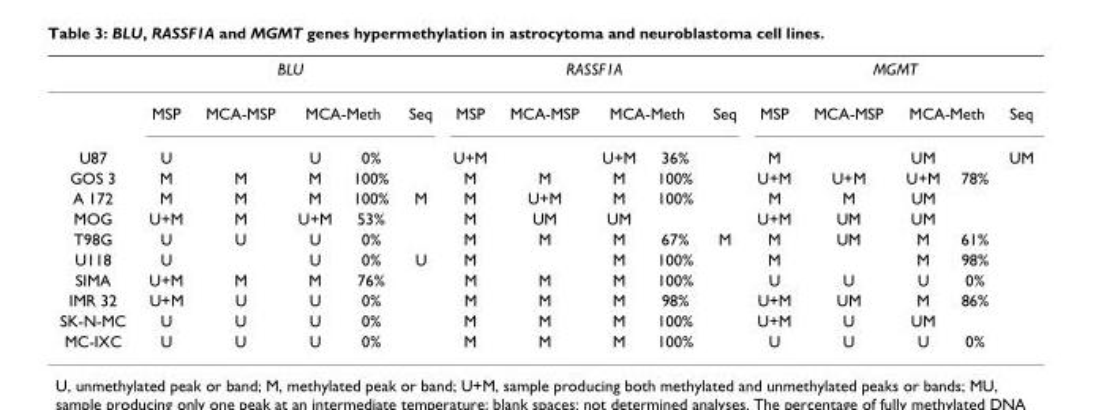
<table><thead><tr><td rowspan="3">U87</td><td colspan="5">BLU</td><td colspan="5">RASSF1A</td><td colspan="5">MGMT</td></tr><tr><td rowspan="2">MSP U</td><td rowspan="2">MCA-MSP</td><td colspan="2">MCA-Meth</td><td rowspan="2">Seq</td><td rowspan="2">MSP U+M</td><td rowspan="2">MCA-MSP</td><td colspan="2">MCA-Meth</td><td rowspan="2">Seq</td><td rowspan="2">MSP M</td><td rowspan="2">MCA-MSP</td><td colspan="2">MCA-Meth</td><td rowspan="2">Seq UM</td></tr><tr><td>U</td><td>0%</td><td>U+M</td><td>36%</td><td>UM</td><td></td></tr></thead><tbody><tr><td>GOS 3</td><td>M</td><td>M</td><td>M</td><td>100%</td><td></td><td>M</td><td>M</td><td>M</td><td>100%</td><td></td><td>U+M</td><td>U+M</td><td>U+M</td><td>78%</td><td></td></tr><tr><td>A 172</td><td>M</td><td>M</td><td>M</td><td>100%</td><td>M</td><td>M</td><td>U+M</td><td>M</td><td>100%</td><td></td><td>M</td><td>M</td><td>UM</td><td></td><td></td></tr><tr><td>MOG</td><td>U+M</td><td>M</td><td>U+M</td><td>53%</td><td></td><td>M</td><td>UM</td><td>UM</td><td></td><td></td><td>U+M</td><td>UM</td><td>UM</td><td></td><td></td></tr><tr><td>T98G</td><td>U</td><td>U</td><td>U</td><td>0%</td><td></td><td>M</td><td>M</td><td>M</td><td>67%</td><td>M</td><td>M</td><td>UM</td><td>M</td><td>61%</td><td></td></tr><tr><td>U118</td><td>U</td><td></td><td>U</td><td>0%</td><td>U</td><td>M</td><td></td><td>M</td><td>100%</td><td></td><td>M</td><td></td><td>M</td><td>98%</td><td></td></tr><tr><td>SIMA</td><td>U+M</td><td>M</td><td>M</td><td>76%</td><td></td><td>M</td><td>M</td><td>M</td><td>100%</td><td></td><td>U</td><td>U</td><td>U</td><td>0%</td><td></td></tr><tr><td>IMR 32</td><td>U+M</td><td>U</td><td>U</td><td>0%</td><td></td><td>M</td><td>M</td><td>M</td><td>98%</td><td></td><td>U+M</td><td>UM</td><td>M</td><td>86%</td><td></td></tr><tr><td>SK-N-MC</td><td>U</td><td>U</td><td>U</td><td>0%</td><td></td><td>M</td><td>M</td><td>M</td><td>100%</td><td></td><td>U+M</td><td>U</td><td>UM</td><td></td><td></td></tr><tr><td>MC-IXC</td><td>U</td><td>U</td><td>U</td><td>0%</td><td></td><td>M</td><td>M</td><td>M</td><td>100%</td><td></td><td>U</td><td>U</td><td>U</td><td>0%</td><td></td></tr></tbody></table>